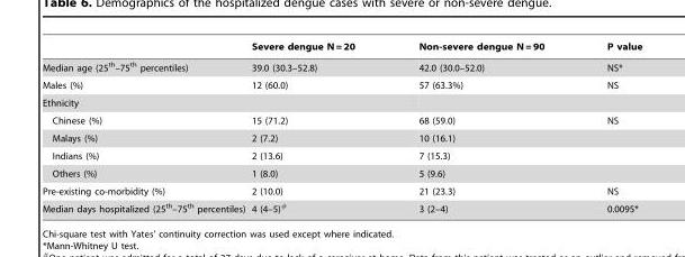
<table><thead><tr><td></td><td>Severe dengue N = 20</td><td>Non-severe dengue N = 90</td><td>P value</td></tr></thead><tbody><tr><td>Median age (25<sup>th</sup>–75<sup>th</sup> percentiles)</td><td>39.0 (30.3–52.8)</td><td>42.0 (30.0–52.0)</td><td>NS*</td></tr><tr><td>Males (%)</td><td>12 (60.0)</td><td>57 (63.3%)</td><td>NS</td></tr><tr><td colspan="4">Ethnicity</td></tr><tr><td>Chinese (%)</td><td>15 (71.2)</td><td>68 (59.0)</td><td>NS</td></tr><tr><td>Malays (%)</td><td>2 (7.2)</td><td>10 (16.1)</td><td></td></tr><tr><td>Indians (%)</td><td>2 (13.6)</td><td>7 (15.3)</td><td></td></tr><tr><td>Others (%)</td><td>1 (8.0)</td><td>5 (9.6)</td><td></td></tr><tr><td>Pre-existing co-morbidity (%)</td><td>2 (10.0)</td><td>21 (23.3)</td><td>NS</td></tr><tr><td>Median days hospitalized (25<sup>th</sup>–75<sup>th</sup> percentiles)</td><td>4 (4–5)#</td><td>3 (2–4)</td><td>0.0095*</td></tr></tbody></table>